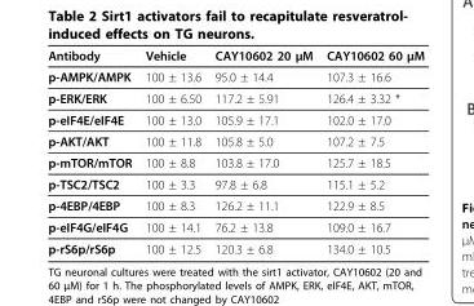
<table><thead><tr><td>Antibody</td><td>Vehicle</td><td>CAY10602 20 μM</td><td>CAY10602 60 μM</td></tr></thead><tbody><tr><td>p-AMPK/AMPK</td><td>100 ± 13.6</td><td>95.0 ± 14.4</td><td>107.3 ± 16.6</td></tr><tr><td>p-ERK/ERK</td><td>100 ± 6.50</td><td>117.2 ± 5.91</td><td>126.4 ± 3.32 *</td></tr><tr><td>p-eIF4E/eIF4E</td><td>100 ± 13.0</td><td>105.9 ± 17.1</td><td>102.0 ± 17.0</td></tr><tr><td>p-AKT/AKT</td><td>100 ± 11.8</td><td>105.8 ± 5.0</td><td>107.2 ± 7.5</td></tr><tr><td>p-mTOR/mTOR</td><td>100 ± 8.8</td><td>103.8 ± 17.0</td><td>125.7 ± 18.5</td></tr><tr><td>p-TSC2/TSC2</td><td>100 ± 3.3</td><td>97.8 ± 6.8</td><td>115.1 ± 5.2</td></tr><tr><td>p-4EBP/4EBP</td><td>100 ± 8.3</td><td>126.2 ± 11.1</td><td>122.9 ± 8.5</td></tr><tr><td>p-eIF4G/eIF4G</td><td>100 ± 14.1</td><td>76.2 ± 13.8</td><td>109.0 ± 16.7</td></tr><tr><td>p-rS6p/rS6p</td><td>100 ± 12.5</td><td>120.3 ± 6.8</td><td>134.0 ± 10.5</td></tr></tbody></table>